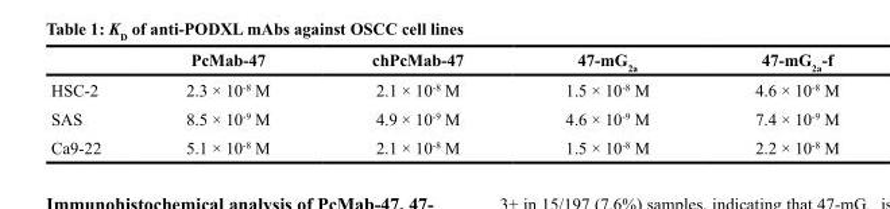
<table><thead><tr><td></td><td>PcMab-47</td><td>chPcMab-47</td><td>47-mG<sub>2a</sub></td><td>47-mG<sub>2a</sub>-f</td></tr></thead><tbody><tr><td>HSC-2</td><td>2.3 × 10<sup>-8</sup> M</td><td>2.1 × 10<sup>-8</sup> M</td><td>1.5 × 10<sup>-8</sup> M</td><td>4.6 × 10<sup>-8</sup> M</td></tr><tr><td>SAS</td><td>8.5 × 10<sup>-9</sup> M</td><td>4.9 × 10<sup>-9</sup> M</td><td>4.6 × 10<sup>-9</sup> M</td><td>7.4 × 10<sup>-9</sup> M</td></tr><tr><td>Ca9-22</td><td>5.1 × 10<sup>-8</sup> M</td><td>2.1 × 10<sup>-8</sup> M</td><td>1.5 × 10<sup>-8</sup> M</td><td>2.2 × 10<sup>-8</sup> M</td></tr></tbody></table>